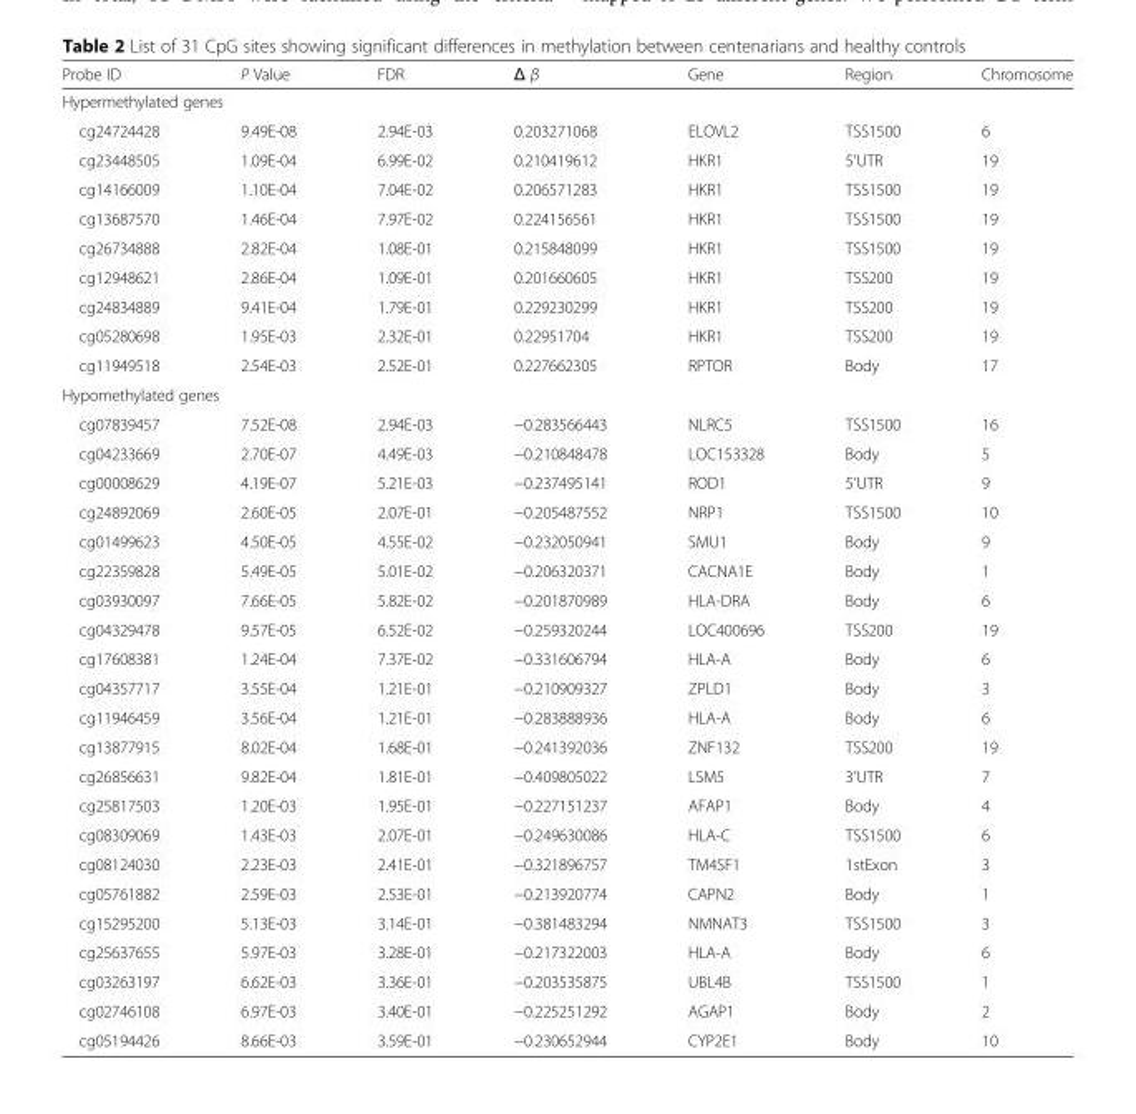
<table><thead><tr><td>Probe ID</td><td>P Value</td><td>FDR</td><td>Δ β</td><td>Gene</td><td>Region</td><td>Chromosome</td></tr></thead><tbody><tr><td colspan="7">Hypermethylated genes</td></tr><tr><td>cg24724428</td><td>9.49E-08</td><td>2.94E-03</td><td>0.203271068</td><td>ELOVL2</td><td>TSS1500</td><td>6</td></tr><tr><td>cg23448505</td><td>1.09E-04</td><td>6.99E-02</td><td>0.210419612</td><td>HKR1</td><td>5’UTR</td><td>19</td></tr><tr><td>cg14166009</td><td>1.10E-04</td><td>7.04E-02</td><td>0.206571283</td><td>HKR1</td><td>TSS1500</td><td>19</td></tr><tr><td>cg13687570</td><td>1.46E-04</td><td>7.97E-02</td><td>0.224156561</td><td>HKR1</td><td>TSS1500</td><td>19</td></tr><tr><td>cg26734888</td><td>2.82E-04</td><td>1.08E-01</td><td>0.215848099</td><td>HKR1</td><td>TSS1500</td><td>19</td></tr><tr><td>cg12948621</td><td>2.86E-04</td><td>1.09E-01</td><td>0.201660605</td><td>HKR1</td><td>TSS200</td><td>19</td></tr><tr><td>cg24834889</td><td>9.41E-04</td><td>1.79E-01</td><td>0.229230299</td><td>HKR1</td><td>TSS200</td><td>19</td></tr><tr><td>cg05280698</td><td>1.95E-03</td><td>2.32E-01</td><td>0.22951704</td><td>HKR1</td><td>TSS200</td><td>19</td></tr><tr><td>cg11949518</td><td>2.54E-03</td><td>2.52E-01</td><td>0.227662305</td><td>RPTOR</td><td>Body</td><td>17</td></tr><tr><td colspan="7">Hypomethylated genes</td></tr><tr><td>cg07839457</td><td>7.52E-08</td><td>2.94E-03</td><td>−0.283566443</td><td>NLRC5</td><td>TSS1500</td><td>16</td></tr><tr><td>cg04233669</td><td>2.70E-07</td><td>4.49E-03</td><td>−0.210848478</td><td>LOC153328</td><td>Body</td><td>5</td></tr><tr><td>cg00008629</td><td>4.19E-07</td><td>5.21E-03</td><td>−0.237495141</td><td>ROD1</td><td>5’UTR</td><td>9</td></tr><tr><td>cg24892069</td><td>2.60E-05</td><td>2.07E-01</td><td>−0.205487552</td><td>NRP1</td><td>TSS1500</td><td>10</td></tr><tr><td>cg01499623</td><td>4.50E-05</td><td>4.55E-02</td><td>−0.232050941</td><td>SMU1</td><td>Body</td><td>9</td></tr><tr><td>cg22359828</td><td>5.49E-05</td><td>5.01E-02</td><td>−0.206320371</td><td>CACNA1E</td><td>Body</td><td>1</td></tr><tr><td>cg03930097</td><td>7.66E-05</td><td>5.82E-02</td><td>−0.201870989</td><td>HLA-DRA</td><td>Body</td><td>6</td></tr><tr><td>cg04329478</td><td>9.57E-05</td><td>6.52E-02</td><td>−0.259320244</td><td>LOC400696</td><td>TSS200</td><td>19</td></tr><tr><td>cg17608381</td><td>1.24E-04</td><td>7.37E-02</td><td>−0.331606794</td><td>HLA-A</td><td>Body</td><td>6</td></tr><tr><td>cg04357717</td><td>3.55E-04</td><td>1.21E-01</td><td>−0.210909327</td><td>ZPLD1</td><td>Body</td><td>3</td></tr><tr><td>cg11946459</td><td>3.56E-04</td><td>1.21E-01</td><td>−0.283888936</td><td>HLA-A</td><td>Body</td><td>6</td></tr><tr><td>cg13877915</td><td>8.02E-04</td><td>1.68E-01</td><td>−0.241392036</td><td>ZNF132</td><td>TSS200</td><td>19</td></tr><tr><td>cg26856631</td><td>9.82E-04</td><td>1.81E-01</td><td>−0.409805022</td><td>LSM5</td><td>3’UTR</td><td>7</td></tr><tr><td>cg25817503</td><td>1.20E-03</td><td>1.95E-01</td><td>−0.227151237</td><td>AFAP1</td><td>Body</td><td>4</td></tr><tr><td>cg08309069</td><td>1.43E-03</td><td>2.07E-01</td><td>−0.249630086</td><td>HLA-C</td><td>TSS1500</td><td>6</td></tr><tr><td>cg08124030</td><td>2.23E-03</td><td>2.41E-01</td><td>−0.321896757</td><td>TM4SF1</td><td>1stExon</td><td>3</td></tr><tr><td>cg05761882</td><td>2.59E-03</td><td>2.53E-01</td><td>−0.213920774</td><td>CAPN2</td><td>Body</td><td>1</td></tr><tr><td>cg15295200</td><td>5.13E-03</td><td>3.14E-01</td><td>−0.381483294</td><td>NMNAT3</td><td>TSS1500</td><td>3</td></tr><tr><td>cg25637655</td><td>5.97E-03</td><td>3.28E-01</td><td>−0.217322003</td><td>HLA-A</td><td>Body</td><td>6</td></tr><tr><td>cg03263197</td><td>6.62E-03</td><td>3.36E-01</td><td>−0.203535875</td><td>UBL4B</td><td>TSS1500</td><td>1</td></tr><tr><td>cg02746108</td><td>6.97E-03</td><td>3.40E-01</td><td>−0.225251292</td><td>AGAP1</td><td>Body</td><td>2</td></tr><tr><td>cg05194426</td><td>8.66E-03</td><td>3.59E-01</td><td>−0.230652944</td><td>CYP2E1</td><td>Body</td><td>10</td></tr></tbody></table>